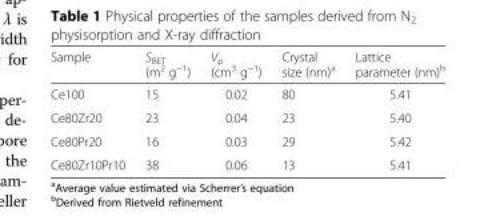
<table><thead><tr><td>Sample</td><td>S<sub>BET</sub> (m<sup>2</sup> g<sup>−1</sup>)</td><td>V<sub>p</sub> (cm<sup>3</sup> g<sup>−1</sup>)</td><td>Crystal size (nm)<sup>a</sup></td><td>Lattice parameter (nm)<sup>b</sup></td></tr></thead><tbody><tr><td>Ce100</td><td>15</td><td>0.02</td><td>80</td><td>5.41</td></tr><tr><td>Ce80Zr20</td><td>23</td><td>0.04</td><td>23</td><td>5.40</td></tr><tr><td>Ce80Pr20</td><td>16</td><td>0.03</td><td>29</td><td>5.42</td></tr><tr><td>Ce80Zr10Pr10</td><td>38</td><td>0.06</td><td>13</td><td>5.41</td></tr></tbody></table>